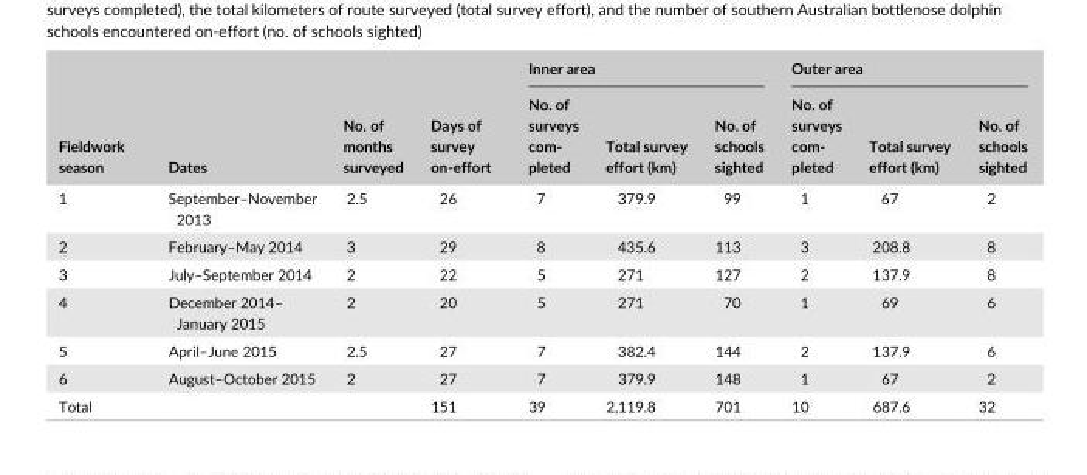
<table><thead><tr><td rowspan="2">Fieldwork season</td><td rowspan="2">Dates</td><td rowspan="2">No. of months surveyed</td><td rowspan="2">Days of survey on- effort</td><td colspan="3">Inner area</td><td colspan="3">Outer area</td></tr><tr><td>No. of surveys com- pleted</td><td>Total survey effort (km)</td><td>No. of schools sighted</td><td>No. of surveys com- pleted</td><td>Total survey effort (km)</td><td>No. of schools sighted</td></tr></thead><tbody><tr><td>1</td><td>September–November 2013</td><td>2.5</td><td>26</td><td>7</td><td>379.9</td><td>99</td><td>1</td><td>67</td><td>2</td></tr><tr><td>2</td><td>February–May 2014</td><td>3</td><td>29</td><td>8</td><td>435.6</td><td>113</td><td>3</td><td>208.8</td><td>8</td></tr><tr><td>3</td><td>July–September 2014</td><td>2</td><td>22</td><td>5</td><td>271</td><td>127</td><td>2</td><td>137.9</td><td>8</td></tr><tr><td>4</td><td>December 2014– January 2015</td><td>2</td><td>20</td><td>5</td><td>271</td><td>70</td><td>1</td><td>69</td><td>6</td></tr><tr><td>5</td><td>April–June 2015</td><td>2.5</td><td>27</td><td>7</td><td>382.4</td><td>144</td><td>2</td><td>137.9</td><td>6</td></tr><tr><td>6</td><td>August–October 2015</td><td>2</td><td>27</td><td>7</td><td>379.9</td><td>148</td><td>1</td><td>67</td><td>2</td></tr><tr><td colspan="3">Total</td><td>151</td><td>39</td><td>2,119.8</td><td>701</td><td>10</td><td>687.6</td><td>32</td></tr></tbody></table>